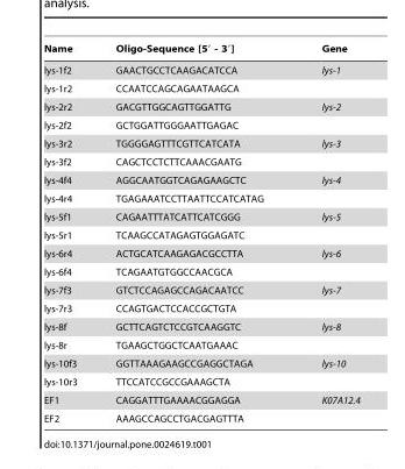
<table><thead><tr><td>Name</td><td>Oligo-Sequence [5′ - 3′]</td><td>Gene</td></tr></thead><tbody><tr><td>lys-1f2</td><td>GAACTGCCTCAAGACATCCA</td><td>lys-1</td></tr><tr><td>lys-1r2</td><td>CCAATCCAGCAGAATAAGCA</td><td></td></tr><tr><td>lys-2r2</td><td>GACGTTGGCAGTTGGATTG</td><td>lys-2</td></tr><tr><td>lys-2f2</td><td>GCTGGATTGGGAATTGAGAC</td><td></td></tr><tr><td>lys-3r2</td><td>TGGGGAGTTTCGTTCATCATA</td><td>lys-3</td></tr><tr><td>lys-3f2</td><td>CAGCTCCTCTTCAAACGAATG</td><td></td></tr><tr><td>lys-4f4</td><td>AGGCAATGGTCAGAGAAGCTC</td><td>lys-4</td></tr><tr><td>lys-4r4</td><td>TGAGAAATCCTTAATTCCATCATAG</td><td></td></tr><tr><td>lys-5f1</td><td>CAGAATTTATCATTCATCGGG</td><td>lys-5</td></tr><tr><td>lys-5r1</td><td>TCAAGCCATAGAGTGGAGATC</td><td></td></tr><tr><td>lys-6r4</td><td>ACTGCATCAAGAGACGCCTTA</td><td>lys-6</td></tr><tr><td>lys-6f4</td><td>TCAGAATGTGGCCAACGCA</td><td></td></tr><tr><td>lys-7f3</td><td>GTCTCCAGAGCCAGACAATCC</td><td>lys-7</td></tr><tr><td>lys-7r3</td><td>CCAGTGACTCCACCGCTGTA</td><td></td></tr><tr><td>lys-8f</td><td>GCTTCAGTCTCCGTCAAGGTC</td><td>lys-8</td></tr><tr><td>lys-8r</td><td>TGAAGCTGGCTCAATGAAAC</td><td></td></tr><tr><td>lys-10f3</td><td>GGTTAAAGAAGCCGAGGCTAGA</td><td>lys-10</td></tr><tr><td>lys-10r3</td><td>TTCCATCCGCCGAAAGCTA</td><td></td></tr><tr><td>EF1</td><td>CAGGATTTGAAAACGGAGGA</td><td>K07A12.4</td></tr><tr><td>EF2</td><td>AAAGCCAGCCTGACGAGTTTA</td><td></td></tr></tbody></table>